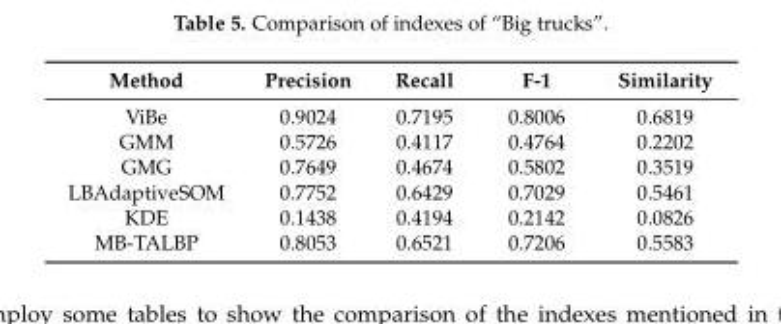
<table><thead><tr><td>Method</td><td>Precision</td><td>Recall</td><td>F-1</td><td>Similarity</td></tr></thead><tbody><tr><td>ViBe</td><td>0.9024</td><td>0.7195</td><td>0.8006</td><td>0.6819</td></tr><tr><td>GMM</td><td>0.5726</td><td>0.4117</td><td>0.4764</td><td>0.2202</td></tr><tr><td>GMG</td><td>0.7649</td><td>0.4674</td><td>0.5802</td><td>0.3519</td></tr><tr><td>LBAdaptiveSOM</td><td>0.7752</td><td>0.6429</td><td>0.7029</td><td>0.5461</td></tr><tr><td>KDE</td><td>0.1438</td><td>0.4194</td><td>0.2142</td><td>0.0826</td></tr><tr><td>MB-TALBP</td><td>0.8053</td><td>0.6521</td><td>0.7206</td><td>0.5583</td></tr></tbody></table>